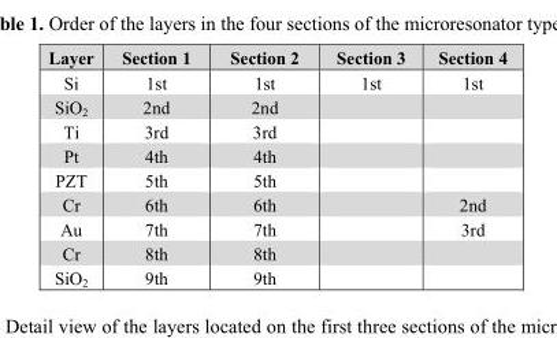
<table><thead><tr><td>Layer</td><td>Section 1</td><td>Section 2</td><td>Section 3</td><td>Section 4</td></tr></thead><tbody><tr><td>Si</td><td>1st</td><td>1st</td><td>1st</td><td>1st</td></tr><tr><td>SiO<sub>2</sub></td><td>2nd</td><td>2nd</td><td></td><td></td></tr><tr><td>Ti</td><td>3rd</td><td>3rd</td><td></td><td></td></tr><tr><td>Pt</td><td>4th</td><td>4th</td><td></td><td></td></tr><tr><td>PZT</td><td>5th</td><td>5th</td><td></td><td></td></tr><tr><td>Cr</td><td>6th</td><td>6th</td><td></td><td>2nd</td></tr><tr><td>Au</td><td>7th</td><td>7th</td><td></td><td>3rd</td></tr><tr><td>Cr</td><td>8th</td><td>8th</td><td></td><td></td></tr><tr><td>SiO<sub>2</sub></td><td>9th</td><td>9th</td><td></td><td></td></tr></tbody></table>